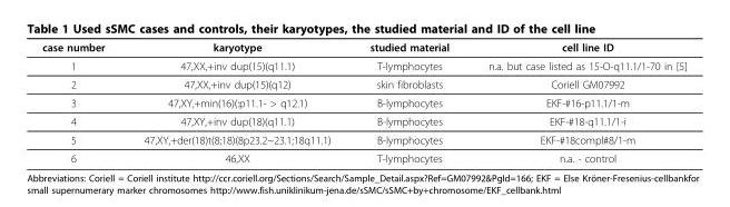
<table><thead><tr><td>case number</td><td>karyotype</td><td>studied material</td><td>cell line ID</td></tr></thead><tbody><tr><td>1</td><td>47,XX,+inv dup(15)(q11.1)</td><td>T-lymphocytes</td><td>n.a. but case listed as 15-O-q11.1/1-70 in [5]</td></tr><tr><td>2</td><td>47,XX,+inv dup(15)(q12)</td><td>skin fibroblasts</td><td>Coriell GM07992</td></tr><tr><td>3</td><td>47,XY,+min(16)(:p11.1- &gt; q12.1)</td><td>B-lymphocytes</td><td>EKF-#16-p11.1/1-m</td></tr><tr><td>4</td><td>47,XY,+inv dup(18)(q11.1)</td><td>B-lymphocytes</td><td>EKF-#18-q11.1/1-i</td></tr><tr><td>5</td><td>47,XY,+der(18)t(8;18)(8p23.2~23.1;18q11.1)</td><td>B-lymphocytes</td><td>EKF-#18compl#8/1-m</td></tr><tr><td>6</td><td>46,XX</td><td>T-lymphocytes</td><td>n.a. - control</td></tr></tbody></table>